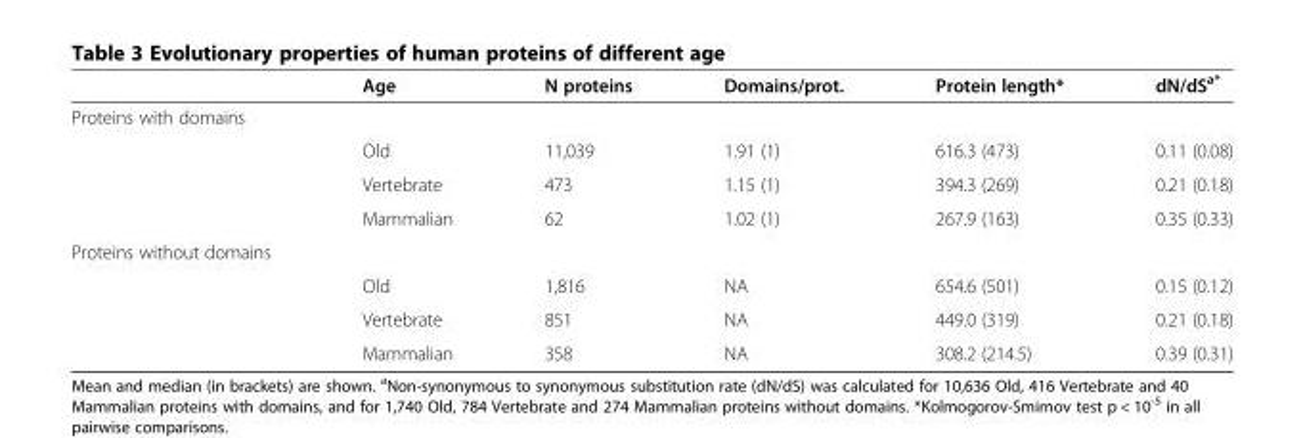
<table><thead><tr><td></td><td>Age</td><td>N proteins</td><td>Domains/prot.</td><td>Protein length*</td><td>dN/dS<sup>a*</sup></td></tr></thead><tbody><tr><td colspan="6">Proteins with domains</td></tr><tr><td></td><td>Old</td><td>11,039</td><td>1.91 (1)</td><td>616.3 (473)</td><td>0.11 (0.08)</td></tr><tr><td></td><td>Vertebrate</td><td>473</td><td>1.15 (1)</td><td>394.3 (269)</td><td>0.21 (0.18)</td></tr><tr><td></td><td>Mammalian</td><td>62</td><td>1.02 (1)</td><td>267.9 (163)</td><td>0.35 (0.33)</td></tr><tr><td colspan="6">Proteins without domains</td></tr><tr><td></td><td>Old</td><td>1,816</td><td>NA</td><td>654.6 (501)</td><td>0.15 (0.12)</td></tr><tr><td></td><td>Vertebrate</td><td>851</td><td>NA</td><td>449.0 (319)</td><td>0.21 (0.18)</td></tr><tr><td></td><td>Mammalian</td><td>358</td><td>NA</td><td>308.2 (214.5)</td><td>0.39 (0.31)</td></tr></tbody></table>